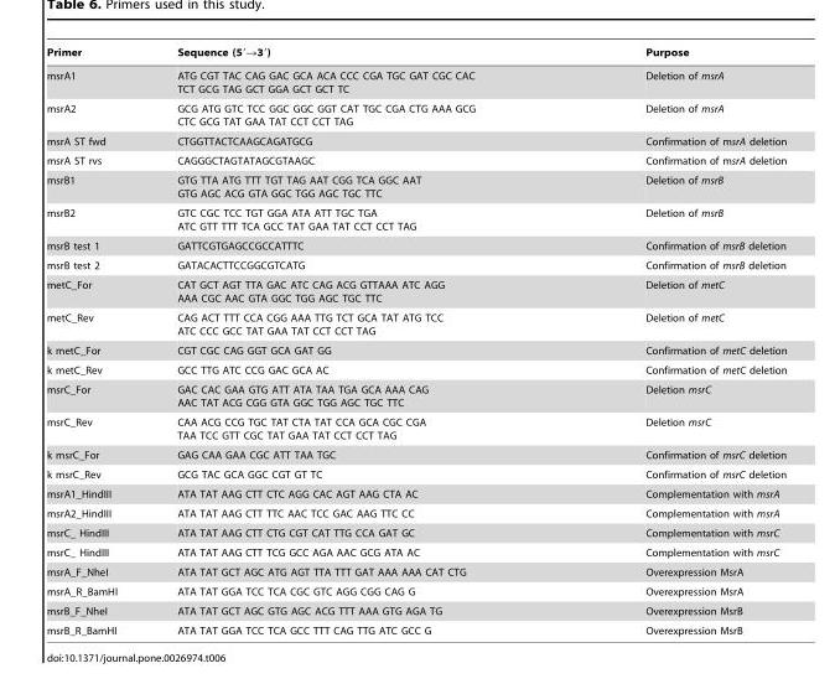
<table><thead><tr><td>Primer</td><td>Sequence (5′→3′)</td><td>Purpose</td></tr></thead><tbody><tr><td>msrA1</td><td>ATG CGT TAC CAG GAC GCA ACA CCC CGA TGC GAT CGC CAC TCT GCG TAG GCT GGA GCT GCT TC</td><td>Deletion of msrA</td></tr><tr><td>msrA2</td><td>GCG ATG GTC TCC GGC GGC GGT CAT TGC CGA CTG AAA GCG CTC GCG TAT GAA TAT CCT CCT TAG</td><td>Deletion of msrA</td></tr><tr><td>msrA ST fwd</td><td>CTGGTTACTCAAGCAGATGCG</td><td>Confirmation of msrA deletion</td></tr><tr><td>msrA ST rvs</td><td>CAGGGCTAGTATAGCGTAAGC</td><td>Confirmation of msrA deletion</td></tr><tr><td>msrB1</td><td>GTG TTA ATG TTT TGT TAG AAT CGG TCA GGC AAT GTG AGC ACG GTA GGC TGG AGC TGC TTC</td><td>Deletion of msrB</td></tr><tr><td>msrB2</td><td>GTC CGC TCC TGT GGA ATA ATT TGC TGA ATC GTT TTT TCA GCC TAT GAA TAT CCT CCT TAG</td><td>Deletion of msrB</td></tr><tr><td>msrB test 1</td><td>GATTCGTGAGCCGCCATTTC</td><td>Confirmation of msrB deletion</td></tr><tr><td>msrB test 2</td><td>GATACACTTCCGGCGTCATG</td><td>Confirmation of msrB deletion</td></tr><tr><td>metC_For</td><td>CAT GCT AGT TTA GAC ATC CAG ACG GTTAAA ATC AGG AAA CGC AAC GTA GGC TGG AGC TGC TTC</td><td>Deletion of metC</td></tr><tr><td>metC_Rev</td><td>CAG ACT TTT CCA CGG AAA TTG TCT GCA TAT ATG TCC ATC CCC GCC TAT GAA TAT CCT CCT TAG</td><td>Deletion of metC</td></tr><tr><td>k metC_For</td><td>CGT CGC CAG GGT GCA GAT GG</td><td>Confirmation of metC deletion</td></tr><tr><td>k metC_Rev</td><td>GCC TTG ATC CCG GAC GCA AC</td><td>Confirmation of metC deletion</td></tr><tr><td>msrC_For</td><td>GAC CAC GAA GTG ATT ATA TAA TGA GCA AAA CAG AAC TAT ACG CGG GTA GGC TGG AGC TGC TTC</td><td>Deletion msrC</td></tr><tr><td>msrC_Rev</td><td>CAA ACG CCG TGC TAT CTA TAT CCA GCA CGC CGA TAA TCC GTT CGC TAT GAA TAT CCT CCT TAG</td><td>Deletion msrC</td></tr><tr><td>k msrC_For</td><td>GAG CAA GAA CGC ATT TAA TGC</td><td>Confirmation of msrC deletion</td></tr><tr><td>k msrC_Rev</td><td>GCG TAC GCA GGC CGT GT TC</td><td>Confirmation of msrC deletion</td></tr><tr><td>msrA1_HindIII</td><td>ATA TAT AAG CTT CTC AGG CAC AGT AAG CTA AC</td><td>Complementation with msrA</td></tr><tr><td>msrA2_HindIII</td><td>ATA TAT AAG CTT TTC AAC TCC GAC AAG TTC CC</td><td>Complementation with msrA</td></tr><tr><td>msrC_ HindIII</td><td>ATA TAT AAG CTT CTG CGT CAT TTG CCA GAT GC</td><td>Complementation with msrC</td></tr><tr><td>msrC_ HindIII</td><td>ATA TAT AAG CTT TCG GCC AGA AAC GCG ATA AC</td><td>Complementation with msrC</td></tr><tr><td>msrA_F_NheI</td><td>ATA TAT GCT AGC ATG AGT TTA TTT GAT AAA AAA CAT CTG</td><td>Overexpression MsrA</td></tr><tr><td>msrA_R_BamHI</td><td>ATA TAT GGA TCC TCA CGC GTC AGG CGG CAG G</td><td>Overexpression MsrA</td></tr><tr><td>msrB_F_NheI</td><td>ATA TAT GCT AGC GTG AGC ACG TTT AAA GTG AGA TG</td><td>Overexpression MsrB</td></tr><tr><td>msrB_R_BamHI</td><td>ATA TAT GGA TCC TCA GCC TTT CAG TTG ATC GCC G</td><td>Overexpression MsrB</td></tr></tbody></table>